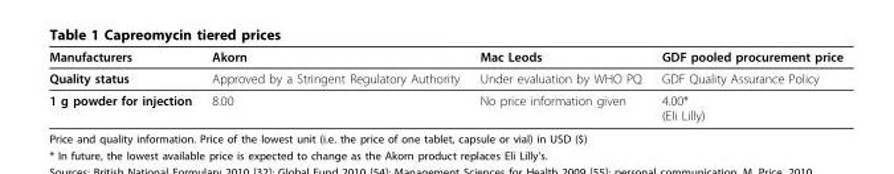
<table><thead><tr><td>Manufacturers</td><td>Akorn</td><td>Mac Leods</td><td>GDF pooled procurement price</td></tr></thead><tbody><tr><td>Quality status</td><td>Approved by a Stringent Regulatory Authority</td><td>Under evaluation by WHO PQ</td><td>GDF Quality Assurance Policy</td></tr><tr><td>1 g powder for injection</td><td>8.00</td><td>No price information given</td><td>4.00* (Eli Lilly)</td></tr></tbody></table>